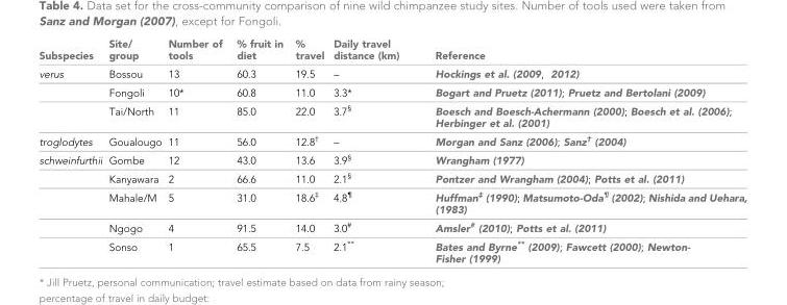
<table><thead><tr><td>Subspecies</td><td>Site/ group</td><td>Number of tools</td><td>% fruit in diet</td><td>% travel</td><td>Daily travel distance (km)</td><td>Reference</td></tr></thead><tbody><tr><td rowspan="3">verus</td><td>Bossou</td><td>13</td><td>60.3</td><td>19.5</td><td>–</td><td>Hockings et al. (2009, 2012)</td></tr><tr><td>Fongoli</td><td>10*</td><td>60.8</td><td>11.0</td><td>3.3*</td><td>Bogart and Pruetz (2011); Pruetz and Bertolani (2009)</td></tr><tr><td>Tai/North</td><td>11</td><td>85.0</td><td>22.0</td><td>3.7<sup>§</sup></td><td>Boesch and Boesch-Achermann (2000); Boesch et al. (2006); Herbinger et al. (2001)</td></tr><tr><td>troglodytes</td><td>Goualougo</td><td>11</td><td>56.0</td><td>12.8<sup>†</sup></td><td>–</td><td>Morgan and Sanz (2006); Sanz<sup>†</sup> (2004)</td></tr><tr><td rowspan="5">schweinfurthii</td><td>Gombe</td><td>12</td><td>43.0</td><td>13.6</td><td>3.9<sup>§</sup></td><td>Wrangham (1977)</td></tr><tr><td>Kanyawara</td><td>2</td><td>66.6</td><td>11.0</td><td>2.1<sup>§</sup></td><td>Pontzer and Wrangham (2004); Potts et al. (2011)</td></tr><tr><td>Mahale/M</td><td>5</td><td>31.0</td><td>18.6<sup>‡</sup></td><td>4.8<sup>¶</sup></td><td>Huffman<sup>‡</sup> (1990); Matsumoto-Oda<sup>¶</sup> (2002); Nishida and Uehara, (1983)</td></tr><tr><td>Ngogo</td><td>4</td><td>91.5</td><td>14.0</td><td>3.0<sup>#</sup></td><td>Amsler<sup>#</sup> (2010); Potts et al. (2011)</td></tr><tr><td>Sonso</td><td>1</td><td>65.5</td><td>7.5</td><td>2.1**</td><td>Bates and Byrne** (2009); Fawcett (2000); Newton- Fisher (1999)</td></tr></tbody></table>